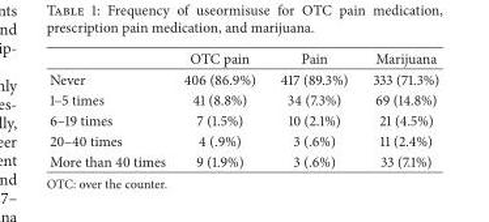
<table><thead><tr><td></td><td>OTC pain</td><td>Pain</td><td>Marijuana</td></tr></thead><tbody><tr><td>Never</td><td>406 (86.9%)</td><td>417 (89.3%)</td><td>333 (71.3%)</td></tr><tr><td>1–5 times</td><td>41 (8.8%)</td><td>34 (7.3%)</td><td>69 (14.8%)</td></tr><tr><td>6–19 times</td><td>7 (1.5%)</td><td>10 (2.1%)</td><td>21 (4.5%)</td></tr><tr><td>20–40 times</td><td>4 (.9%)</td><td>3 (.6%)</td><td>11 (2.4%)</td></tr><tr><td>More than 40 times</td><td>9 (1.9%)</td><td>3 (.6%)</td><td>33 (7.1%)</td></tr></tbody></table>